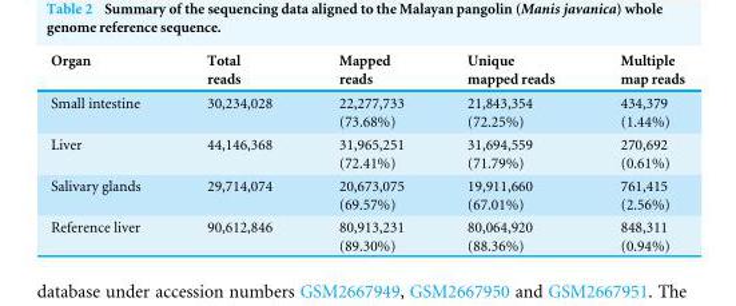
<table><thead><tr><td>Organ</td><td>Total reads</td><td>Mapped reads</td><td>Unique mapped reads</td><td>Multiple map reads</td></tr></thead><tbody><tr><td>Small intestine</td><td>30,234,028</td><td>22,277,733 (73.68%)</td><td>21,843,354 (72.25%)</td><td>434,379 (1.44%)</td></tr><tr><td>Liver</td><td>44,146,368</td><td>31,965,251 (72.41%)</td><td>31,694,559 (71.79%)</td><td>270,692 (0.61%)</td></tr><tr><td>Salivary glands</td><td>29,714,074</td><td>20,673,075 (69.57%)</td><td>19,911,660 (67.01%)</td><td>761,415 (2.56%)</td></tr><tr><td>Reference liver</td><td>90,612,846</td><td>80,913,231 (89.30%)</td><td>80,064,920 (88.36%)</td><td>848,311 (0.94%)</td></tr></tbody></table>